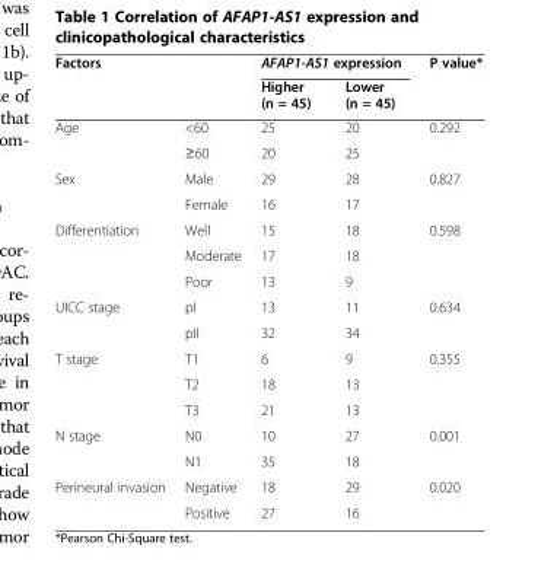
<table><thead><tr><td rowspan="2">Factors</td><td rowspan="2"></td><td colspan="2">AFAP1-AS1 expression</td><td rowspan="2">P value*</td></tr><tr><td>Higher (n = 45)</td><td>Lower (n = 45)</td></tr></thead><tbody><tr><td rowspan="2">Age</td><td>&lt;60</td><td>25</td><td>20</td><td>0.292</td></tr><tr><td>≥60</td><td>20</td><td>25</td><td></td></tr><tr><td rowspan="2">Sex</td><td>Male</td><td>29</td><td>28</td><td>0.827</td></tr><tr><td>Female</td><td>16</td><td>17</td><td></td></tr><tr><td rowspan="3">Differentiation</td><td>Well</td><td>15</td><td>18</td><td>0.598</td></tr><tr><td>Moderate</td><td>17</td><td>18</td><td></td></tr><tr><td>Poor</td><td>13</td><td>9</td><td></td></tr><tr><td rowspan="2">UICC stage</td><td>pI</td><td>13</td><td>11</td><td>0.634</td></tr><tr><td>pII</td><td>32</td><td>34</td><td></td></tr><tr><td rowspan="3">T stage</td><td>T1</td><td>6</td><td>9</td><td>0.355</td></tr><tr><td>T2</td><td>18</td><td>13</td><td></td></tr><tr><td>T3</td><td>21</td><td>13</td><td></td></tr><tr><td rowspan="2">N stage</td><td>N0</td><td>10</td><td>27</td><td>0.001</td></tr><tr><td>N1</td><td>35</td><td>18</td><td></td></tr><tr><td rowspan="2">Perineural invasion</td><td>Negative</td><td>18</td><td>29</td><td>0.020</td></tr><tr><td>Positive</td><td>27</td><td>16</td><td></td></tr></tbody></table>